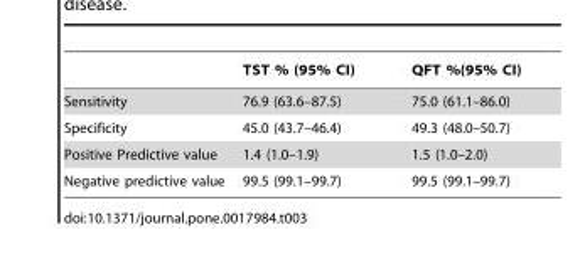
<table><thead><tr><td></td><td>TST % (95% CI)</td><td>QFT %(95% CI)</td></tr></thead><tbody><tr><td>Sensitivity</td><td>76.9 (63.6–87.5)</td><td>75.0 (61.1–86.0)</td></tr><tr><td>Specificity</td><td>45.0 (43.7–46.4)</td><td>49.3 (48.0–50.7)</td></tr><tr><td>Positive Predictive value</td><td>1.4 (1.0–1.9)</td><td>1.5 (1.0–2.0)</td></tr><tr><td>Negative predictive value</td><td>99.5 (99.1–99.7)</td><td>99.5 (99.1–99.7)</td></tr></tbody></table>